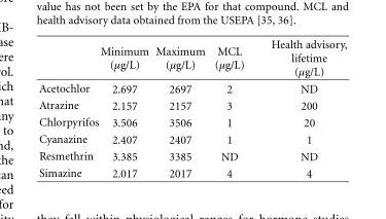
<table><thead><tr><td></td><td>Minimum (μg/L)</td><td>Maximum (μg/L)</td><td>MCL (μg/L)</td><td>Health advisory, lifetime (μg/L)</td></tr></thead><tbody><tr><td>Acetochlor</td><td>2.697</td><td>2697</td><td>2</td><td>ND</td></tr><tr><td>Atrazine</td><td>2.157</td><td>2157</td><td>3</td><td>200</td></tr><tr><td>Chlorpyrifos</td><td>3.506</td><td>3506</td><td>1</td><td>20</td></tr><tr><td>Cyanazine</td><td>2.407</td><td>2407</td><td>1</td><td>1</td></tr><tr><td>Resmethrin</td><td>3.385</td><td>3385</td><td>ND</td><td>ND</td></tr><tr><td>Simazine</td><td>2.017</td><td>2017</td><td>4</td><td>4</td></tr></tbody></table>